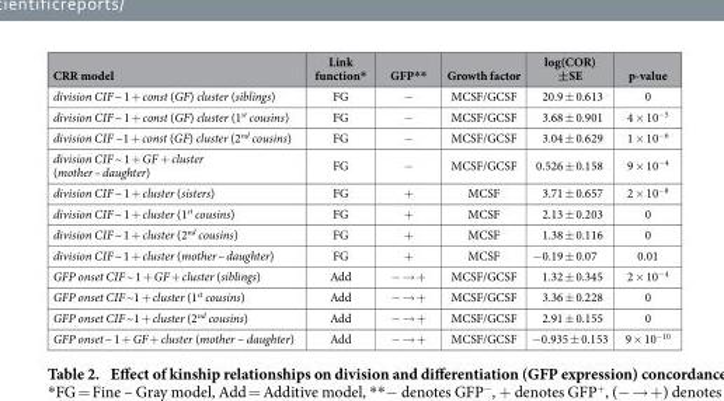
<table><thead><tr><td>CRR model</td><td>Link function*</td><td>GFP**</td><td>Growth factor</td><td>log(COR) ±SE</td><td>p-value</td></tr></thead><tbody><tr><td>division CIF ~ 1 + const (GF) cluster (siblings)</td><td>FG</td><td>−</td><td>MCSF/GCSF</td><td>20.9 ± 0.613</td><td>0</td></tr><tr><td>division CIF ~ 1 + const (GF) cluster (1<sup>st</sup> cousins)</td><td>FG</td><td>−</td><td>MCSF/GCSF</td><td>3.68 ± 0.901</td><td>4 × 10<sup>−5</sup></td></tr><tr><td>division CIF ~1 + const (GF) cluster (2<sup>nd</sup> cousins)</td><td>FG</td><td>−</td><td>MCSF/GCSF</td><td>3.04 ± 0.629</td><td>1 × 10<sup>−6</sup></td></tr><tr><td>division CIF ~ 1 + GF + cluster (mother – daughter)</td><td>FG</td><td>−</td><td>MCSF/GCSF</td><td>0.526 ± 0.158</td><td>9 × 10<sup>−4</sup></td></tr><tr><td>division CIF ~ 1 + cluster (sisters)</td><td>FG</td><td>+</td><td>MCSF</td><td>3.71 ± 0.657</td><td>2 × 10<sup>−8</sup></td></tr><tr><td>division CIF ~ 1 + cluster (1<sup>st</sup> cousins)</td><td>FG</td><td>+</td><td>MCSF</td><td>2.13 ± 0.203</td><td>0</td></tr><tr><td>division CIF ~ 1 + cluster (2<sup>nd</sup> cousins)</td><td>FG</td><td>+</td><td>MCSF</td><td>1.38 ± 0.116</td><td>0</td></tr><tr><td>division CIF ~ 1 + cluster (mother – daughter)</td><td>FG</td><td>+</td><td>MCSF</td><td>− 0.19 ± 0.07</td><td>0.01</td></tr><tr><td>GFP onset CIF ~ 1 + GF + cluster (siblings)</td><td>Add</td><td>− → +</td><td>MCSF/GCSF</td><td>1.32 ± 0.345</td><td>2 × 10<sup>−4</sup></td></tr><tr><td>GFP onset CIF ~1 + cluster (1<sup>st</sup> cousins)</td><td>Add</td><td>− → +</td><td>MCSF/GCSF</td><td>3.36 ± 0.228</td><td>0</td></tr><tr><td>GFP onset CIF ~1 + cluster (2<sup>nd</sup> cousins)</td><td>Add</td><td>− → +</td><td>MCSF/GCSF</td><td>2.91 ± 0.155</td><td>0</td></tr><tr><td>GFP onset ~ 1 + GF + cluster (mother – daughter)</td><td>Add</td><td>− → +</td><td>MCSF/GCSF</td><td>− 0.935 ± 0.153</td><td>9 × 10<sup>−10</sup></td></tr></tbody></table>